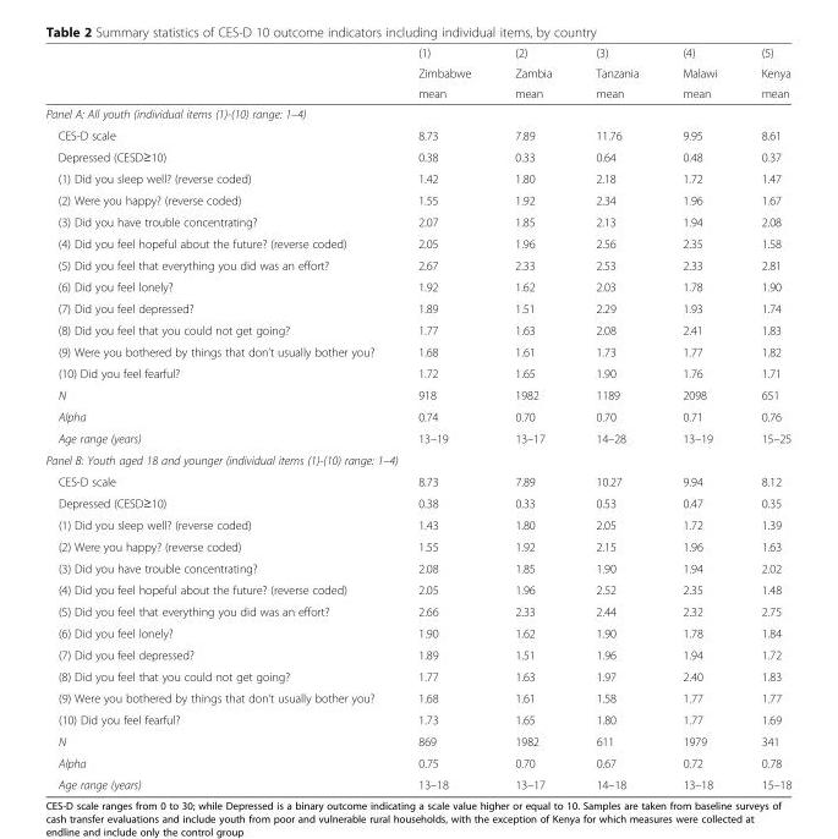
<table><thead><tr><td rowspan="3"></td><td rowspan="3">(1) Zimbabwe mean</td><td rowspan="3">(2) Zambia mean</td><td rowspan="3">(3) Tanzania mean</td><td rowspan="3">(4) Malawi mean</td><td rowspan="3">(5) Kenya mean</td></tr><tr></tr><tr></tr></thead><tbody><tr><td colspan="6">Panel A: All youth (individual items (1)-(10) range: 1–4)</td></tr><tr><td>CES-D scale</td><td>8.73</td><td>7.89</td><td>11.76</td><td>9.95</td><td>8.61</td></tr><tr><td>Depressed (CESD≥10)</td><td>0.38</td><td>0.33</td><td>0.64</td><td>0.48</td><td>0.37</td></tr><tr><td>(1) Did you sleep well? (reverse coded)</td><td>1.42</td><td>1.80</td><td>2.18</td><td>1.72</td><td>1.47</td></tr><tr><td>(2) Were you happy? (reverse coded)</td><td>1.55</td><td>1.92</td><td>2.34</td><td>1.96</td><td>1.67</td></tr><tr><td>(3) Did you have trouble concentrating?</td><td>2.07</td><td>1.85</td><td>2.13</td><td>1.94</td><td>2.08</td></tr><tr><td>(4) Did you feel hopeful about the future? (reverse coded)</td><td>2.05</td><td>1.96</td><td>2.56</td><td>2.35</td><td>1.58</td></tr><tr><td>(5) Did you feel that everything you did was an effort?</td><td>2.67</td><td>2.33</td><td>2.53</td><td>2.33</td><td>2.81</td></tr><tr><td>(6) Did you feel lonely?</td><td>1.92</td><td>1.62</td><td>2.03</td><td>1.78</td><td>1.90</td></tr><tr><td>(7) Did you feel depressed?</td><td>1.89</td><td>1.51</td><td>2.29</td><td>1.93</td><td>1.74</td></tr><tr><td>(8) Did you feel that you could not get going?</td><td>1.77</td><td>1.63</td><td>2.08</td><td>2.41</td><td>1.83</td></tr><tr><td>(9) Were you bothered by things that don’t usually bother you?</td><td>1.68</td><td>1.61</td><td>1.73</td><td>1.77</td><td>1.82</td></tr><tr><td>(10) Did you feel fearful?</td><td>1.72</td><td>1.65</td><td>1.90</td><td>1.76</td><td>1.71</td></tr><tr><td>N</td><td>918</td><td>1982</td><td>1189</td><td>2098</td><td>651</td></tr><tr><td>Alpha</td><td>0.74</td><td>0.70</td><td>0.70</td><td>0.71</td><td>0.76</td></tr><tr><td>Age range (years)</td><td>13–19</td><td>13–17</td><td>14–28</td><td>13–19</td><td>15–25</td></tr><tr><td colspan="6">Panel B: Youth aged 18 and younger (individual items (1)-(10) range: 1–4)</td></tr><tr><td>CES-D scale</td><td>8.73</td><td>7.89</td><td>10.27</td><td>9.94</td><td>8.12</td></tr><tr><td>Depressed (CESD≥10)</td><td>0.38</td><td>0.33</td><td>0.53</td><td>0.47</td><td>0.35</td></tr><tr><td>(1) Did you sleep well? (reverse coded)</td><td>1.43</td><td>1.80</td><td>2.05</td><td>1.72</td><td>1.39</td></tr><tr><td>(2) Were you happy? (reverse coded)</td><td>1.55</td><td>1.92</td><td>2.15</td><td>1.96</td><td>1.63</td></tr><tr><td>(3) Did you have trouble concentrating?</td><td>2.08</td><td>1.85</td><td>1.90</td><td>1.94</td><td>2.02</td></tr><tr><td>(4) Did you feel hopeful about the future? (reverse coded)</td><td>2.05</td><td>1.96</td><td>2.52</td><td>2.35</td><td>1.48</td></tr><tr><td>(5) Did you feel that everything you did was an effort?</td><td>2.66</td><td>2.33</td><td>2.44</td><td>2.32</td><td>2.75</td></tr><tr><td>(6) Did you feel lonely?</td><td>1.90</td><td>1.62</td><td>1.90</td><td>1.78</td><td>1.84</td></tr><tr><td>(7) Did you feel depressed?</td><td>1.89</td><td>1.51</td><td>1.96</td><td>1.94</td><td>1.72</td></tr><tr><td>(8) Did you feel that you could not get going?</td><td>1.77</td><td>1.63</td><td>1.97</td><td>2.40</td><td>1.83</td></tr><tr><td>(9) Were you bothered by things that don’t usually bother you?</td><td>1.68</td><td>1.61</td><td>1.58</td><td>1.77</td><td>1.77</td></tr><tr><td>(10) Did you feel fearful?</td><td>1.73</td><td>1.65</td><td>1.80</td><td>1.77</td><td>1.69</td></tr><tr><td>N</td><td>869</td><td>1982</td><td>611</td><td>1979</td><td>341</td></tr><tr><td>Alpha</td><td>0.75</td><td>0.70</td><td>0.67</td><td>0.72</td><td>0.78</td></tr><tr><td>Age range (years)</td><td>13–18</td><td>13–17</td><td>14–18</td><td>13–18</td><td>15–18</td></tr></tbody></table>